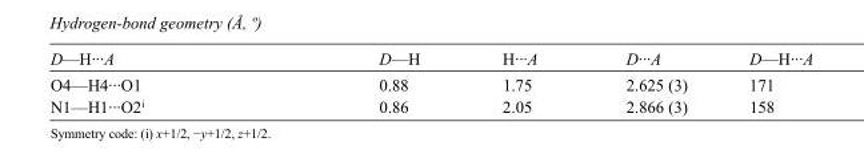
<table><tbody><tr><td>D—H···A</td><td>D—H</td><td>H···A</td><td>D···A</td><td>D—H···A</td></tr><tr><td>O4—H4···O1</td><td>0.88</td><td>1.75</td><td>2.625 (3)</td><td>171</td></tr><tr><td>N1—H1···O2<sup>i</sup></td><td>0.86</td><td>2.05</td><td>2.866 (3)</td><td>158</td></tr></tbody></table>